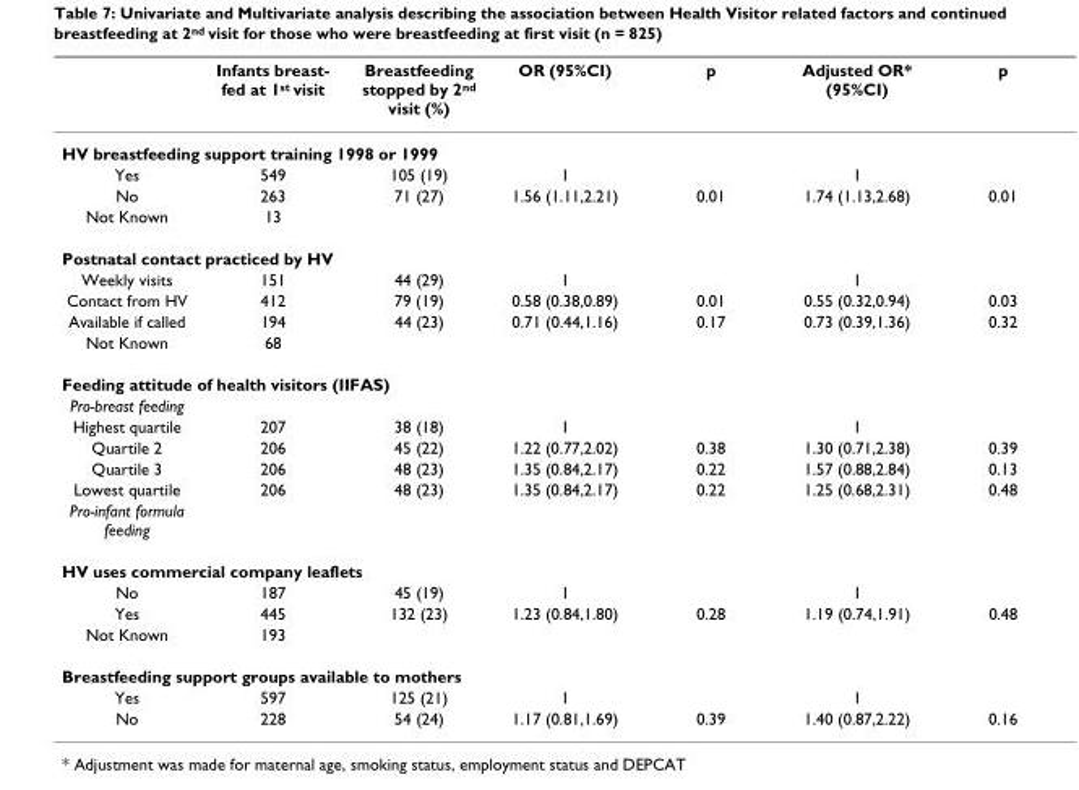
<table><thead><tr><td></td><td>Infants breast- fed at 1st visit</td><td>Breastfeeding stopped by 2<sup>nd</sup> visit (%)</td><td>OR (95%CI)</td><td>p</td><td>Adjusted OR* (95%CI)</td><td>p</td></tr></thead><tbody><tr><td colspan="7">HV breastfeeding support training 1998 or 1999</td></tr><tr><td>Yes</td><td>549</td><td>105 (19)</td><td>1</td><td></td><td>1</td><td></td></tr><tr><td>No</td><td>263</td><td>71 (27)</td><td>1.56 (1.11,2.21)</td><td>0.01</td><td>1.74 (1.13,2.68)</td><td>0.01</td></tr><tr><td>Not Known</td><td>13</td><td></td><td></td><td></td><td></td><td></td></tr><tr><td colspan="7">Postnatal contact practiced by HV</td></tr><tr><td>Weekly visits</td><td>151</td><td>44 (29)</td><td>1</td><td></td><td>1</td><td></td></tr><tr><td>Contact from HV</td><td>412</td><td>79 (19)</td><td>0.58 (0.38,0.89)</td><td>0.01</td><td>0.55 (0.32,0.94)</td><td>0.03</td></tr><tr><td>Available if called</td><td>194</td><td>44 (23)</td><td>0.71 (0.44,1.16)</td><td>0.17</td><td>0.73 (0.39,1.36)</td><td>0.32</td></tr><tr><td>Not Known</td><td>68</td><td></td><td></td><td></td><td></td><td></td></tr><tr><td colspan="7">Feeding attitude of health visitors (IIFAS)</td></tr><tr><td colspan="7">Pro-breast feeding</td></tr><tr><td>Highest quartile</td><td>207</td><td>38 (18)</td><td>1</td><td></td><td>1</td><td></td></tr><tr><td>Quartile 2</td><td>206</td><td>45 (22)</td><td>1.22 (0.77,2.02)</td><td>0.38</td><td>1.30 (0.71,2.38)</td><td>0.39</td></tr><tr><td>Quartile 3</td><td>206</td><td>48 (23)</td><td>1.35 (0.84,2.17)</td><td>0.22</td><td>1.57 (0.88,2.84)</td><td>0.13</td></tr><tr><td>Lowest quartile</td><td>206</td><td>48 (23)</td><td>1.35 (0.84,2.17)</td><td>0.22</td><td>1.25 (0.68,2.31)</td><td>0.48</td></tr><tr><td colspan="7">Pro-infant formula feeding</td></tr><tr><td colspan="7">HV uses commercial company leaflets</td></tr><tr><td>No</td><td>187</td><td>45 (19)</td><td>1</td><td></td><td>1</td><td></td></tr><tr><td>Yes</td><td>445</td><td>132 (23)</td><td>1.23 (0.84,1.80)</td><td>0.28</td><td>1.19 (0.74,1.91)</td><td>0.48</td></tr><tr><td>Not Known</td><td>193</td><td></td><td></td><td></td><td></td><td></td></tr><tr><td colspan="7">Breastfeeding support groups available to mothers</td></tr><tr><td>Yes</td><td>597</td><td>125 (21)</td><td>1</td><td></td><td>1</td><td></td></tr><tr><td>No</td><td>228</td><td>54 (24)</td><td>1.17 (0.81,1.69)</td><td>0.39</td><td>1.40 (0.87,2.22)</td><td>0.16</td></tr></tbody></table>